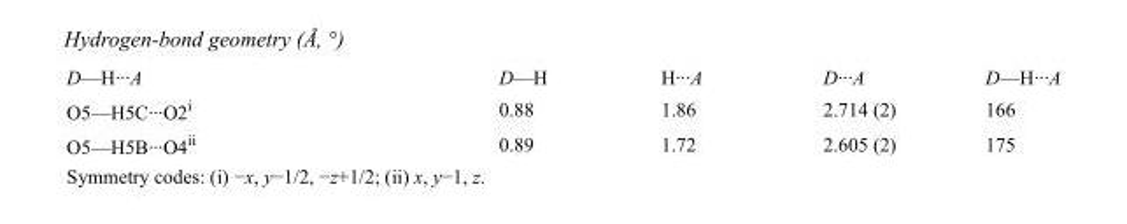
<table><tbody><tr><td>D—H···A</td><td>D—H</td><td>H···A</td><td>D···A</td><td>D—H···A</td></tr><tr><td>O5—H5C···O2<sup>i</sup></td><td>0.88</td><td>1.86</td><td>2.714 (2)</td><td>166</td></tr><tr><td>O5—H5B···O4<sup>ii</sup></td><td>0.89</td><td>1.72</td><td>2.605 (2)</td><td>175</td></tr></tbody></table>